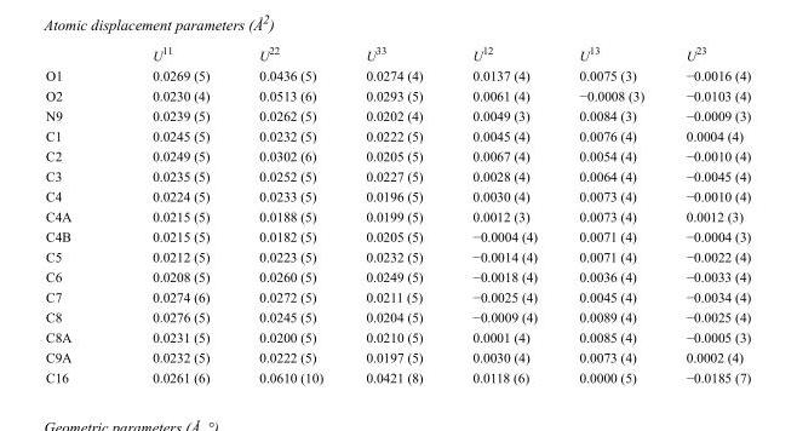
<table><thead><tr><td></td><td>U<sup>11</sup></td><td>U<sup>22</sup></td><td>U<sup>33</sup></td><td>U<sup>12</sup></td><td>U<sup>13</sup></td><td>U<sup>23</sup></td></tr></thead><tbody><tr><td>O1</td><td>0.0269 (5)</td><td>0.0436 (5)</td><td>0.0274 (4)</td><td>0.0137 (4)</td><td>0.0075 (3)</td><td>−0.0016 (4)</td></tr><tr><td>O2</td><td>0.0230 (4)</td><td>0.0513 (6)</td><td>0.0293 (5)</td><td>0.0061 (4)</td><td>−0.0008 (3)</td><td>−0.0103 (4)</td></tr><tr><td>N9</td><td>0.0239 (5)</td><td>0.0262 (5)</td><td>0.0202 (4)</td><td>0.0049 (3)</td><td>0.0084 (3)</td><td>−0.0009 (3)</td></tr><tr><td>C1</td><td>0.0245 (5)</td><td>0.0232 (5)</td><td>0.0222 (5)</td><td>0.0045 (4)</td><td>0.0076 (4)</td><td>0.0004 (4)</td></tr><tr><td>C2</td><td>0.0249 (5)</td><td>0.0302 (6)</td><td>0.0205 (5)</td><td>0.0067 (4)</td><td>0.0054 (4)</td><td>−0.0010 (4)</td></tr><tr><td>C3</td><td>0.0235 (5)</td><td>0.0252 (5)</td><td>0.0227 (5)</td><td>0.0028 (4)</td><td>0.0064 (4)</td><td>−0.0045 (4)</td></tr><tr><td>C4</td><td>0.0224 (5)</td><td>0.0233 (5)</td><td>0.0196 (5)</td><td>0.0030 (4)</td><td>0.0073 (4)</td><td>−0.0010 (4)</td></tr><tr><td>C4A</td><td>0.0215 (5)</td><td>0.0188 (5)</td><td>0.0199 (5)</td><td>0.0012 (3)</td><td>0.0073 (4)</td><td>0.0012 (3)</td></tr><tr><td>C4B</td><td>0.0215 (5)</td><td>0.0182 (5)</td><td>0.0205 (5)</td><td>−0.0004 (4)</td><td>0.0071 (4)</td><td>−0.0004 (3)</td></tr><tr><td>C5</td><td>0.0212 (5)</td><td>0.0223 (5)</td><td>0.0232 (5)</td><td>−0.0014 (4)</td><td>0.0071 (4)</td><td>−0.0022 (4)</td></tr><tr><td>C6</td><td>0.0208 (5)</td><td>0.0260 (5)</td><td>0.0249 (5)</td><td>−0.0018 (4)</td><td>0.0036 (4)</td><td>−0.0033 (4)</td></tr><tr><td>C7</td><td>0.0274 (6)</td><td>0.0272 (5)</td><td>0.0211 (5)</td><td>−0.0025 (4)</td><td>0.0045 (4)</td><td>−0.0034 (4)</td></tr><tr><td>C8</td><td>0.0276 (5)</td><td>0.0245 (5)</td><td>0.0204 (5)</td><td>−0.0009 (4)</td><td>0.0089 (4)</td><td>−0.0025 (4)</td></tr><tr><td>C8A</td><td>0.0231 (5)</td><td>0.0200 (5)</td><td>0.0210 (5)</td><td>0.0001 (4)</td><td>0.0085 (4)</td><td>−0.0005 (3)</td></tr><tr><td>C9A</td><td>0.0232 (5)</td><td>0.0222 (5)</td><td>0.0197 (5)</td><td>0.0030 (4)</td><td>0.0073 (4)</td><td>0.0002 (4)</td></tr><tr><td>C16</td><td>0.0261 (6)</td><td>0.0610 (10)</td><td>0.0421 (8)</td><td>0.0118 (6)</td><td>0.0000 (5)</td><td>−0.0185 (7)</td></tr></tbody></table>